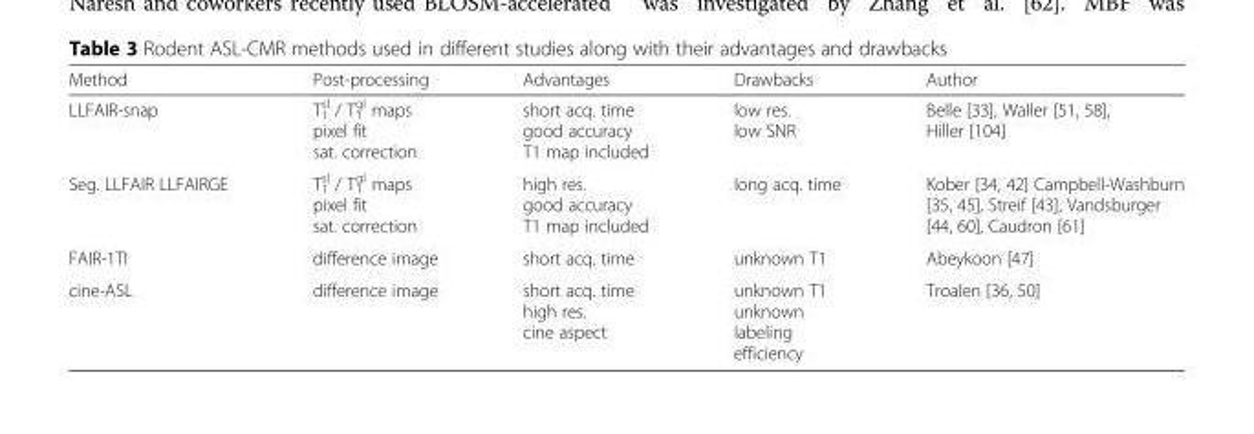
<table><thead><tr><td>Method</td><td>Post-processing</td><td>Advantages</td><td>Drawbacks</td><td>Author</td></tr></thead><tbody><tr><td>LLFAIR-snap</td><td>T<sub>1</sub> <sup>sl</sup> / T<sub>1</sub> <sup>gl</sup> maps pixel fit sat. correction</td><td>short acq. time good accuracy T1 map included</td><td>low res. low SNR</td><td>Belle [33], Waller [51, 58], Hiller [104]</td></tr><tr><td>Seg. LLFAIR LLFAIRGE</td><td>T<sub>1</sub> <sup>sl</sup> / T<sub>1</sub> <sup>gl</sup> maps pixel fit sat. correction</td><td>high res. good accuracy T1 map included</td><td>long acq. time</td><td>Kober [34, 42] Campbell-Washburn [35, 45], Streif [43], Vandsburger [44, 60], Caudron [61]</td></tr><tr><td>FAIR-1TI</td><td>difference image</td><td>short acq. time</td><td>unknown T1</td><td>Abeykoon [47]</td></tr><tr><td>cine-ASL</td><td>difference image</td><td>short acq. time high res. cine aspect</td><td>unknown T1 unknown labeling efficiency</td><td>Troalen [36, 50]</td></tr></tbody></table>